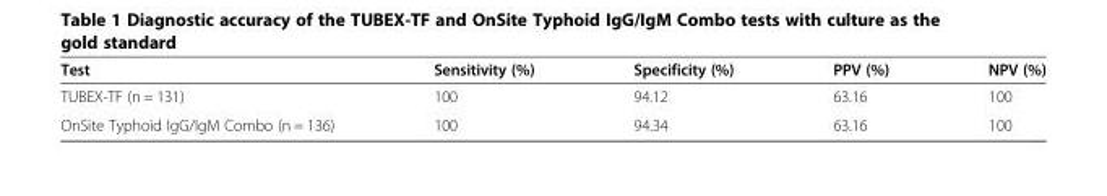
<table><thead><tr><td>Test</td><td>Sensitivity (%)</td><td>Specificity (%)</td><td>PPV (%)</td><td>NPV (%)</td></tr></thead><tbody><tr><td>TUBEX-TF (n = 131)</td><td>100</td><td>94.12</td><td>63.16</td><td>100</td></tr><tr><td>OnSite Typhoid IgG/IgM Combo (n = 136)</td><td>100</td><td>94.34</td><td>63.16</td><td>100</td></tr></tbody></table>